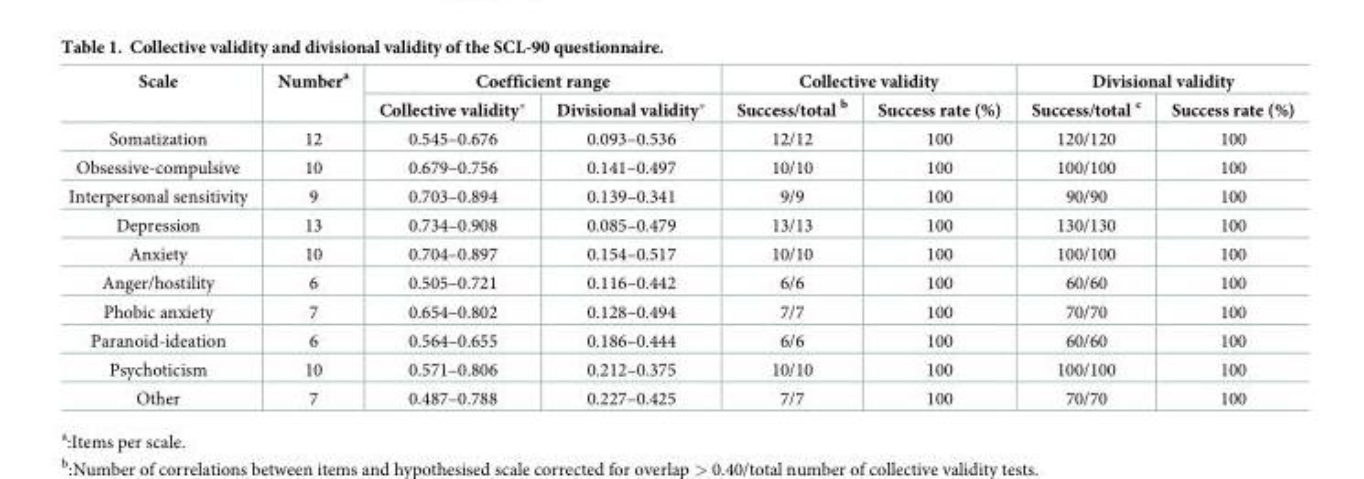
<table><thead><tr><td rowspan="2">Scale</td><td rowspan="2">Number<sup>a</sup></td><td colspan="2">Coefficient range</td><td colspan="2">Collective validity</td><td colspan="2">Divisional validity</td></tr><tr><td>Collective validity*</td><td>Divisional validity*</td><td>Success/total <sup>b</sup></td><td>Success rate (%)</td><td>Success/total <sup>c</sup></td><td>Success rate (%)</td></tr></thead><tbody><tr><td>Somatization</td><td>12</td><td>0.545–0.676</td><td>0.093–0.536</td><td>12/12</td><td>100</td><td>120/120</td><td>100</td></tr><tr><td>Obsessive-compulsive</td><td>10</td><td>0.679–0.756</td><td>0.141–0.497</td><td>10/10</td><td>100</td><td>100/100</td><td>100</td></tr><tr><td>Interpersonal sensitivity</td><td>9</td><td>0.703–0.894</td><td>0.139–0.341</td><td>9/9</td><td>100</td><td>90/90</td><td>100</td></tr><tr><td>Depression</td><td>13</td><td>0.734–0.908</td><td>0.085–0.479</td><td>13/13</td><td>100</td><td>130/130</td><td>100</td></tr><tr><td>Anxiety</td><td>10</td><td>0.704–0.897</td><td>0.154–0.517</td><td>10/10</td><td>100</td><td>100/100</td><td>100</td></tr><tr><td>Anger/hostility</td><td>6</td><td>0.505–0.721</td><td>0.116–0.442</td><td>6/6</td><td>100</td><td>60/60</td><td>100</td></tr><tr><td>Phobic anxiety</td><td>7</td><td>0.654–0.802</td><td>0.128–0.494</td><td>7/7</td><td>100</td><td>70/70</td><td>100</td></tr><tr><td>Paranoid-ideation</td><td>6</td><td>0.564–0.655</td><td>0.186–0.444</td><td>6/6</td><td>100</td><td>60/60</td><td>100</td></tr><tr><td>Psychoticism</td><td>10</td><td>0.571–0.806</td><td>0.212–0.375</td><td>10/10</td><td>100</td><td>100/100</td><td>100</td></tr><tr><td>Other</td><td>7</td><td>0.487–0.788</td><td>0.227–0.425</td><td>7/7</td><td>100</td><td>70/70</td><td>100</td></tr></tbody></table>